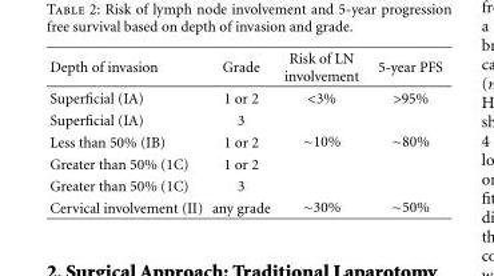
<table><thead><tr><td>Depth of invasion</td><td>Grade</td><td>Risk of LN involvement</td><td>5-year PFS</td></tr></thead><tbody><tr><td>Superficial (IA)</td><td>1 or 2</td><td>&lt;3%</td><td>&gt;95%</td></tr><tr><td>Superficial (IA)</td><td>3</td><td rowspan="3">∼10%</td><td rowspan="3">∼80%</td></tr><tr><td>Less than 50% (IB)</td><td>1 or 2</td></tr><tr><td>Greater than 50% (1C)</td><td>1 or 2</td></tr><tr><td>Greater than 50% (1C)</td><td>3</td><td rowspan="2">∼30%</td><td rowspan="2">∼50%</td></tr><tr><td>Cervical involvement (II)</td><td>any grade</td></tr></tbody></table>